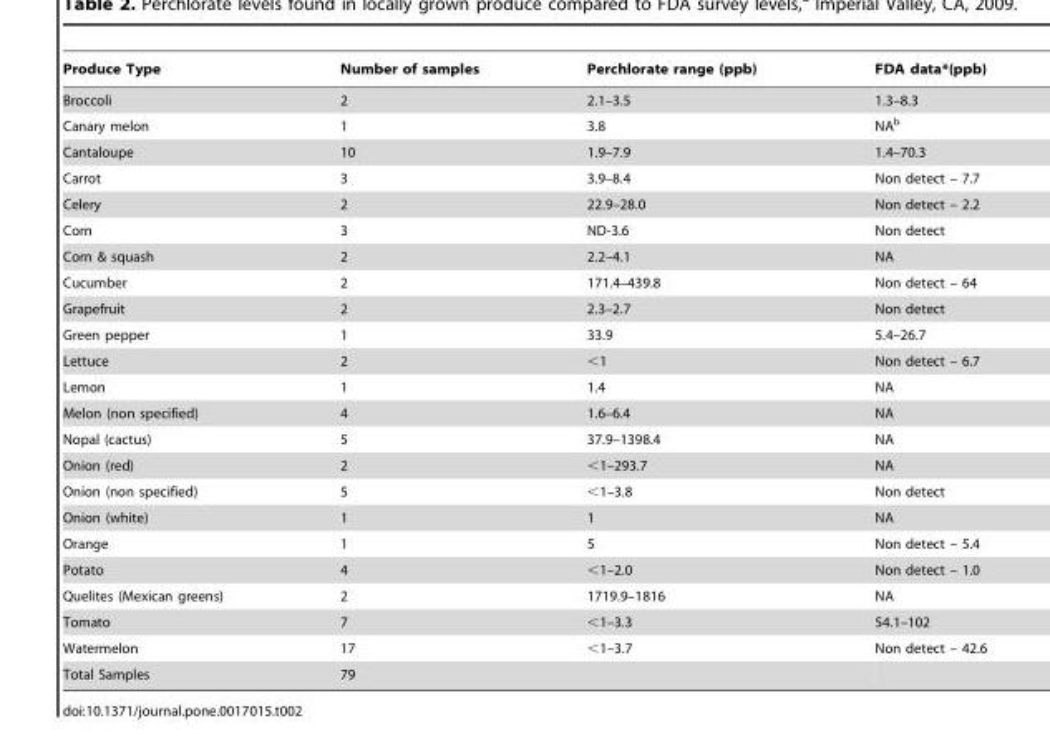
<table><thead><tr><td>Produce Type</td><td>Number of samples</td><td>Perchlorate range (ppb)</td><td>FDA data*(ppb)</td></tr></thead><tbody><tr><td>Broccoli</td><td>2</td><td>2.1–3.5</td><td>1.3–8.3</td></tr><tr><td>Canary melon</td><td>1</td><td>3.8</td><td>NA<sup>b</sup></td></tr><tr><td>Cantaloupe</td><td>10</td><td>1.9–7.9</td><td>1.4–70.3</td></tr><tr><td>Carrot</td><td>3</td><td>3.9–8.4</td><td>Non detect – 7.7</td></tr><tr><td>Celery</td><td>2</td><td>22.9–28.0</td><td>Non detect – 2.2</td></tr><tr><td>Corn</td><td>3</td><td>ND-3.6</td><td>Non detect</td></tr><tr><td>Corn &amp; squash</td><td>2</td><td>2.2–4.1</td><td>NA</td></tr><tr><td>Cucumber</td><td>2</td><td>171.4–439.8</td><td>Non detect – 64</td></tr><tr><td>Grapefruit</td><td>2</td><td>2.3–2.7</td><td>Non detect</td></tr><tr><td>Green pepper</td><td>1</td><td>33.9</td><td>5.4–26.7</td></tr><tr><td>Lettuce</td><td>2</td><td>&lt;1</td><td>Non detect – 6.7</td></tr><tr><td>Lemon</td><td>1</td><td>1.4</td><td>NA</td></tr><tr><td>Melon (non specified)</td><td>4</td><td>1.6–6.4</td><td>NA</td></tr><tr><td>Nopal (cactus)</td><td>5</td><td>37.9–1398.4</td><td>NA</td></tr><tr><td>Onion (red)</td><td>2</td><td>&lt;1–293.7</td><td>NA</td></tr><tr><td>Onion (non specified)</td><td>5</td><td>&lt;1–3.8</td><td>Non detect</td></tr><tr><td>Onion (white)</td><td>1</td><td>1</td><td>NA</td></tr><tr><td>Orange</td><td>1</td><td>5</td><td>Non detect – 5.4</td></tr><tr><td>Potato</td><td>4</td><td>&lt;1–2.0</td><td>Non detect – 1.0</td></tr><tr><td>Quelites (Mexican greens)</td><td>2</td><td>1719.9–1816</td><td>NA</td></tr><tr><td>Tomato</td><td>7</td><td>&lt;1–3.3</td><td>54.1–102</td></tr><tr><td>Watermelon</td><td>17</td><td>&lt;1–3.7</td><td>Non detect – 42.6</td></tr><tr><td>Total Samples</td><td>79</td><td></td><td></td></tr></tbody></table>